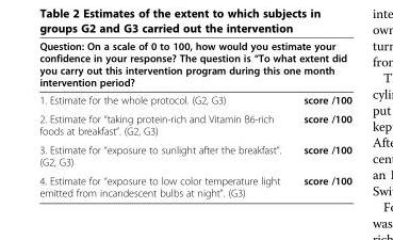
<table><thead><tr><td colspan="2">Question: On a scale of 0 to 100, how would you estimate your confidence in your response? The question is “To what extent did you carry out this intervention program during this one month intervention period?</td></tr><tr><td>1. Estimate for the whole protocol. (G2, G3)</td><td>score /100</td></tr></thead><tbody><tr><td>2. Estimate for “taking protein-rich and Vitamin B6-rich foods at breakfast”. (G2, G3)</td><td>score /100</td></tr><tr><td>3. Estimate for “exposure to sunlight after the breakfast”. (G2, G3)</td><td>score /100</td></tr><tr><td>4. Estimate for “exposure to low color temperature light emitted from incandescent bulbs at night&quot;. (G3)</td><td>score /100</td></tr></tbody></table>